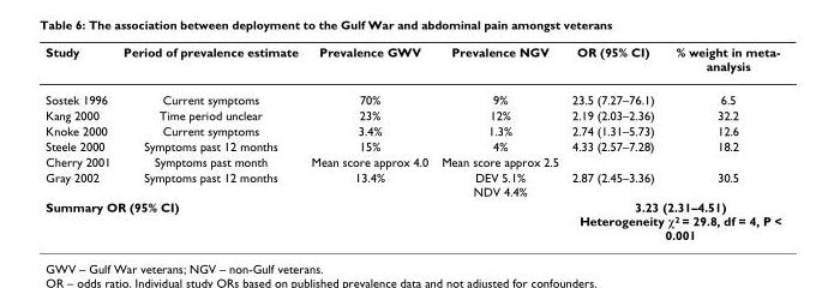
<table><thead><tr><td>Study</td><td>Period of prevalence estimate</td><td>Prevalence GWV</td><td>Prevalence NGV</td><td>OR (95% CI)</td><td>% weight in meta- analysis</td></tr></thead><tbody><tr><td>Sostek 1996</td><td>Current symptoms</td><td>70%</td><td>9%</td><td>23.5 (7.27–76.1)</td><td>6.5</td></tr><tr><td>Kang 2000</td><td>Time period unclear</td><td>23%</td><td>12%</td><td>2.19 (2.03–2.36)</td><td>32.2</td></tr><tr><td>Knoke 2000</td><td>Current symptoms</td><td>3.4%</td><td>1.3%</td><td>2.74 (1.31–5.73)</td><td>12.6</td></tr><tr><td>Steele 2000</td><td>Symptoms past 12 months</td><td>15%</td><td>4%</td><td>4.33 (2.57–7.28)</td><td>18.2</td></tr><tr><td>Cherry 2001</td><td>Symptoms past month</td><td>Mean score approx 4.0</td><td>Mean score approx 2.5</td><td></td><td></td></tr><tr><td>Gray 2002</td><td>Symptoms past 12 months</td><td>13.4%</td><td>DEV 5.1% NDV 4.4%</td><td>2.87 (2.45–3.36)</td><td>30.5</td></tr><tr><td colspan="4">Summary OR (95% CI)</td><td colspan="2">3.23 (2.31–4.51) Heterogeneity χ2 = 29.8, df = 4, P &lt; 0.001</td></tr></tbody></table>